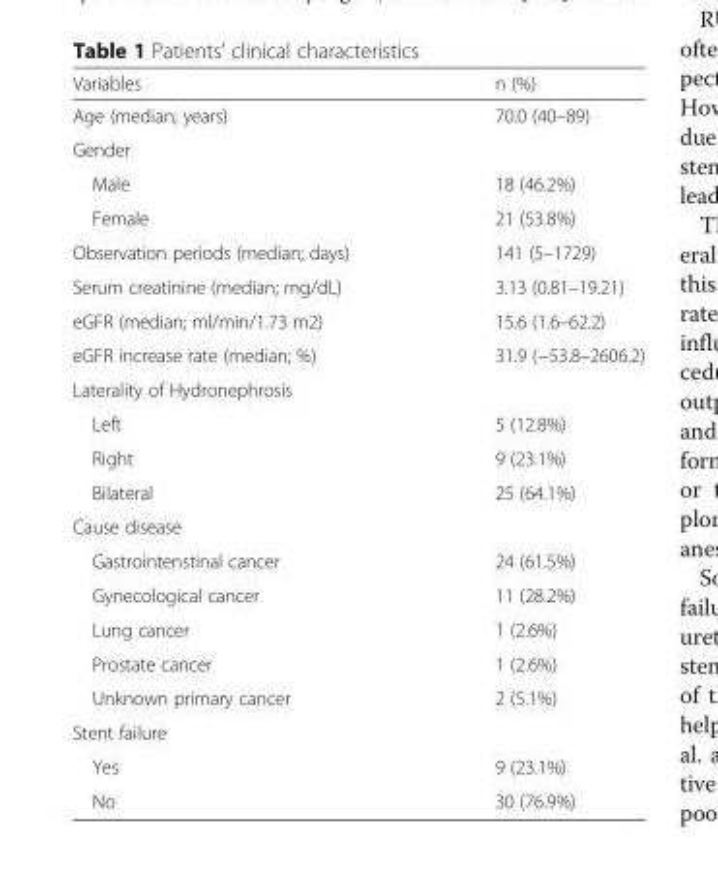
<table><thead><tr><td>Variables</td><td>n (%)</td></tr></thead><tbody><tr><td>Age (median; years)</td><td>70.0 (40–89)</td></tr><tr><td colspan="2">Gender</td></tr><tr><td>Male</td><td>18 (46.2%)</td></tr><tr><td>Female</td><td>21 (53.8%)</td></tr><tr><td>Observation periods (median; days)</td><td>141 (5–1729)</td></tr><tr><td>Serum creatinine (median; mg/dL)</td><td>3.13 (0.81–19.21)</td></tr><tr><td>eGFR (median; ml/min/1.73 m2)</td><td>15.6 (1.6–62.2)</td></tr><tr><td>eGFR increase rate (median; %)</td><td>31.9 (−53.8–2606.2)</td></tr><tr><td colspan="2">Laterality of Hydronephrosis</td></tr><tr><td>Left</td><td>5 (12.8%)</td></tr><tr><td>Right</td><td>9 (23.1%)</td></tr><tr><td>Bilateral</td><td>25 (64.1%)</td></tr><tr><td colspan="2">Cause disease</td></tr><tr><td>Gastrointenstinal cancer</td><td>24 (61.5%)</td></tr><tr><td>Gynecological cancer</td><td>11 (28.2%)</td></tr><tr><td>Lung cancer</td><td>1 (2.6%)</td></tr><tr><td>Prostate cancer</td><td>1 (2.6%)</td></tr><tr><td>Unknown primary cancer</td><td>2 (5.1%)</td></tr><tr><td colspan="2">Stent failure</td></tr><tr><td>Yes</td><td>9 (23.1%)</td></tr><tr><td>No</td><td>30 (76.9%)</td></tr></tbody></table>